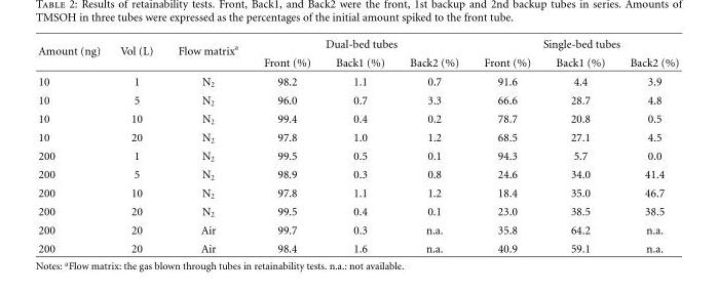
<table><thead><tr><td rowspan="2">Amount (ng)</td><td rowspan="2">Vol (L)</td><td rowspan="2">Flow matrix<sup>a</sup></td><td colspan="3">Dual-bed tubes</td><td colspan="3">Single-bed tubes</td></tr><tr><td>Front (%)</td><td>Back1 (%)</td><td>Back2 (%)</td><td>Front (%)</td><td>Back1 (%)</td><td>Back2 (%)</td></tr></thead><tbody><tr><td>10</td><td>1</td><td>N<sub>2</sub></td><td>98.2</td><td>1.1</td><td>0.7</td><td>91.6</td><td>4.4</td><td>3.9</td></tr><tr><td>10</td><td>5</td><td>N<sub>2</sub></td><td>96.0</td><td>0.7</td><td>3.3</td><td>66.6</td><td>28.7</td><td>4.8</td></tr><tr><td>10</td><td>10</td><td>N<sub>2</sub></td><td>99.4</td><td>0.4</td><td>0.2</td><td>78.7</td><td>20.8</td><td>0.5</td></tr><tr><td>10</td><td>20</td><td>N<sub>2</sub></td><td>97.8</td><td>1.0</td><td>1.2</td><td>68.5</td><td>27.1</td><td>4.5</td></tr><tr><td>200</td><td>1</td><td>N<sub>2</sub></td><td>99.5</td><td>0.5</td><td>0.1</td><td>94.3</td><td>5.7</td><td>0.0</td></tr><tr><td>200</td><td>5</td><td>N<sub>2</sub></td><td>98.9</td><td>0.3</td><td>0.8</td><td>24.6</td><td>34.0</td><td>41.4</td></tr><tr><td>200</td><td>10</td><td>N<sub>2</sub></td><td>97.8</td><td>1.1</td><td>1.2</td><td>18.4</td><td>35.0</td><td>46.7</td></tr><tr><td>200</td><td>20</td><td>N<sub>2</sub></td><td>99.5</td><td>0.4</td><td>0.1</td><td>23.0</td><td>38.5</td><td>38.5</td></tr><tr><td>200</td><td>20</td><td>Air</td><td>99.7</td><td>0.3</td><td>n.a.</td><td>35.8</td><td>64.2</td><td>n.a.</td></tr><tr><td>200</td><td>20</td><td>Air</td><td>98.4</td><td>1.6</td><td>n.a.</td><td>40.9</td><td>59.1</td><td>n.a.</td></tr></tbody></table>